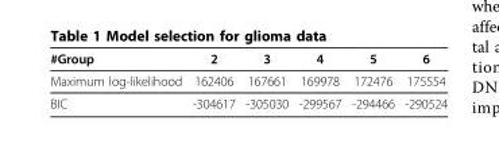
<table><thead><tr><td>#Group</td><td>2</td><td>3</td><td>4</td><td>5</td><td>6</td></tr></thead><tbody><tr><td>Maximum log-likelihood</td><td>162406</td><td>167661</td><td>169978</td><td>172476</td><td>175554</td></tr><tr><td>BIC</td><td>-304617</td><td>-305030</td><td>-299567</td><td>-294466</td><td>-290524</td></tr></tbody></table>